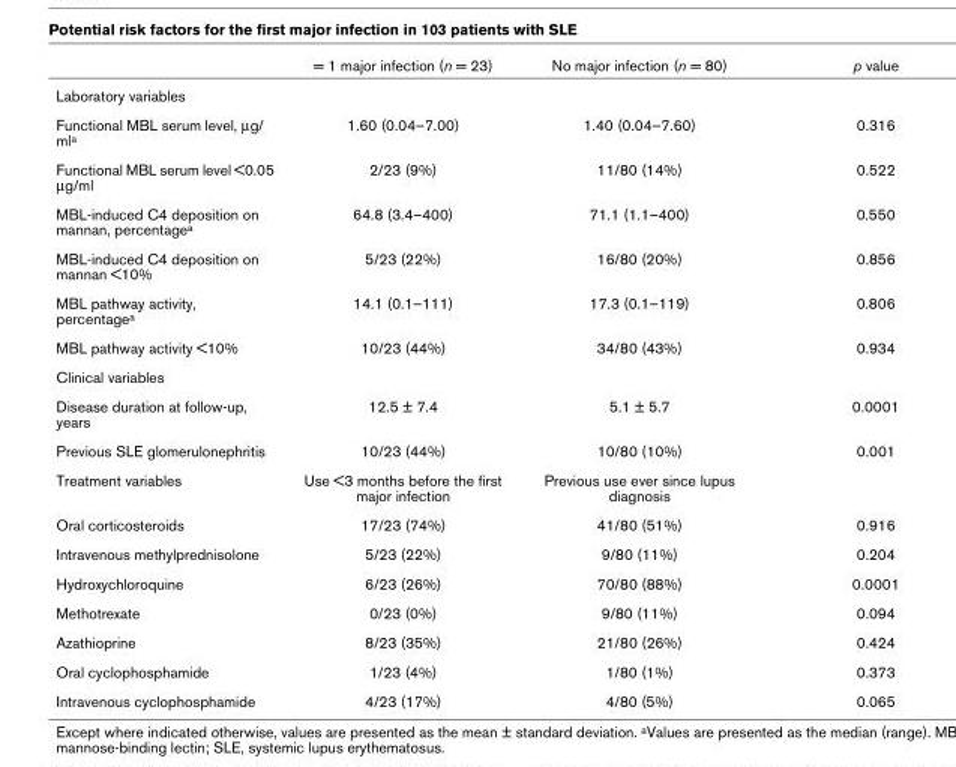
<table><thead><tr><td></td><td>= 1 major infection (n = 23)</td><td>No major infection (n = 80)</td><td>p value</td></tr></thead><tbody><tr><td colspan="4">Laboratory variables</td></tr><tr><td>Functional MBL serum level, μg/ mla</td><td>1.60 (0.04–7.00)</td><td>1.40 (0.04–7.60)</td><td>0.316</td></tr><tr><td>Functional MBL serum level &lt;0.05 μg/ml</td><td>2/23 (9%)</td><td>11/80 (14%)</td><td>0.522</td></tr><tr><td>MBL-induced C4 deposition on mannan, percentagea</td><td>64.8 (3.4–400)</td><td>71.1 (1.1–400)</td><td>0.550</td></tr><tr><td>MBL-induced C4 deposition on mannan &lt;10%</td><td>5/23 (22%)</td><td>16/80 (20%)</td><td>0.856</td></tr><tr><td>MBL pathway activity, percentagea</td><td>14.1 (0.1–111)</td><td>17.3 (0.1–119)</td><td>0.806</td></tr><tr><td>MBL pathway activity &lt;10%</td><td>10/23 (44%)</td><td>34/80 (43%)</td><td>0.934</td></tr><tr><td colspan="4">Clinical variables</td></tr><tr><td>Disease duration at follow-up, years</td><td>12.5 ± 7.4</td><td>5.1 ± 5.7</td><td>0.0001</td></tr><tr><td>Previous SLE glomerulonephritis</td><td>10/23 (44%)</td><td>10/80 (10%)</td><td>0.001</td></tr><tr><td>Treatment variables</td><td>Use &lt;3 months before the first major infection</td><td>Previous use ever since lupus diagnosis</td><td></td></tr><tr><td>Oral corticosteroids</td><td>17/23 (74%)</td><td>41/80 (51%)</td><td>0.916</td></tr><tr><td>Intravenous methylprednisolone</td><td>5/23 (22%)</td><td>9/80 (11%)</td><td>0.204</td></tr><tr><td>Hydroxychloroquine</td><td>6/23 (26%)</td><td>70/80 (88%)</td><td>0.0001</td></tr><tr><td>Methotrexate</td><td>0/23 (0%)</td><td>9/80 (11%)</td><td>0.094</td></tr><tr><td>Azathioprine</td><td>8/23 (35%)</td><td>21/80 (26%)</td><td>0.424</td></tr><tr><td>Oral cyclophosphamide</td><td>1/23 (4%)</td><td>1/80 (1%)</td><td>0.373</td></tr><tr><td>Intravenous cyclophosphamide</td><td>4/23 (17%)</td><td>4/80 (5%)</td><td>0.065</td></tr></tbody></table>